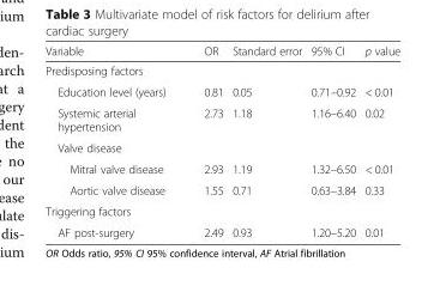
<table><thead><tr><td>Variable</td><td>OR</td><td>Standard error</td><td>95% CI</td><td>p value</td></tr></thead><tbody><tr><td colspan="5">Predisposing factors</td></tr><tr><td>Education level (years)</td><td>0.81</td><td>0.05</td><td>0.71–0.92</td><td>&lt; 0.01</td></tr><tr><td>Systemic arterial hypertension</td><td>2.73</td><td>1.18</td><td>1.16–6.40</td><td>0.02</td></tr><tr><td colspan="5">Valve disease</td></tr><tr><td>Mitral valve disease</td><td>2.93</td><td>1.19</td><td>1.32–6.50</td><td>&lt; 0.01</td></tr><tr><td>Aortic valve disease</td><td>1.55</td><td>0.71</td><td>0.63–3.84</td><td>0.33</td></tr><tr><td colspan="5">Triggering factors</td></tr><tr><td>AF post-surgery</td><td>2.49</td><td>0.93</td><td>1.20–5.20</td><td>0.01</td></tr></tbody></table>